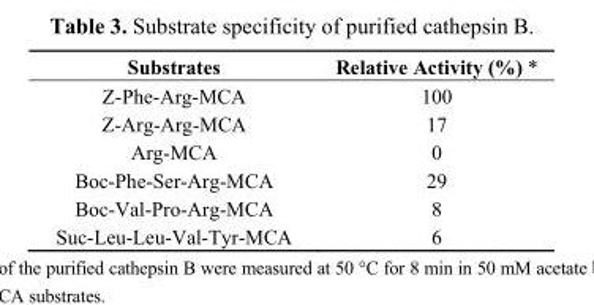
<table><thead><tr><td>Substrates</td><td>Relative Activity (%) *</td></tr></thead><tbody><tr><td>Z-Phe-Arg-MCA</td><td>100</td></tr><tr><td>Z-Arg-Arg-MCA</td><td>17</td></tr><tr><td>Arg-MCA</td><td>0</td></tr><tr><td>Boc-Phe-Ser-Arg-MCA</td><td>29</td></tr><tr><td>Boc-Val-Pro-Arg-MCA</td><td>8</td></tr><tr><td>Suc-Leu-Leu-Val-Tyr-MCA</td><td>6</td></tr></tbody></table>